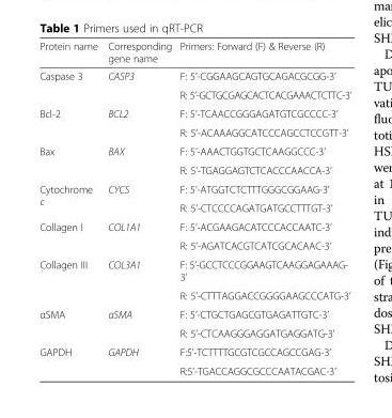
<table><thead><tr><td>Protein name</td><td>Corresponding gene name</td><td>Primers: Forward (F) &amp; Reverse (R)</td></tr></thead><tbody><tr><td rowspan="2">Caspase 3</td><td rowspan="2">CASP3</td><td>F: 5’-CGGAAGCAGTGCAGACGCGG-3’</td></tr><tr><td>R: 5’-GCTGCGAGCACTCACGAAACTCTTC-3’</td></tr><tr><td rowspan="2">Bcl-2</td><td rowspan="2">BCL2</td><td>F: 5’-TCAACCGGGAGATGTCGCCCC-3’</td></tr><tr><td>R: 5’-ACAAAGGCATCCCAGCCTCCGTT-3’</td></tr><tr><td rowspan="2">Bax</td><td rowspan="2">BAX</td><td>F: 5’-AAACTGGTGCTCAAGGCCC-3’</td></tr><tr><td>R: 5’-TGAGGAGTCTCACCCAACCA-3’</td></tr><tr><td rowspan="2">Cytochrome c</td><td rowspan="2">CYCS</td><td>F: 5’-ATGGTCTCTTTGGGCGGAAG-3’</td></tr><tr><td>R: 5’-CTCCCCAGATGATGCCTTTGT-3’</td></tr><tr><td rowspan="2">Collagen I</td><td rowspan="2">COL1A1</td><td>F: 5’-ACGAAGACATCCCACCAATC-3’</td></tr><tr><td>R: 5’-AGATCACGTCATCGCACAAC-3’</td></tr><tr><td rowspan="2">Collagen III</td><td rowspan="2">COL3A1</td><td>F: 5’-GCCTCCCGGAAGTCAAGGAGAAAG- 3’</td></tr><tr><td>R: 5’-CTTTAGGACCGGGGAAGCCCATG-3’</td></tr><tr><td rowspan="2">αSMA</td><td rowspan="2">αSMA</td><td>F: 5’-CTGCTGAGCGTGAGATTGTC-3’</td></tr><tr><td>R: 5’-CTCAAGGGAGGATGAGGATG-3’</td></tr><tr><td rowspan="2">GAPDH</td><td rowspan="2">GAPDH</td><td>F:5’-TCTTTTGCGTCGCCAGCCGAG-3’</td></tr><tr><td>R:5’-TGACCAGGCGCCCAATACGAC-3’</td></tr></tbody></table>